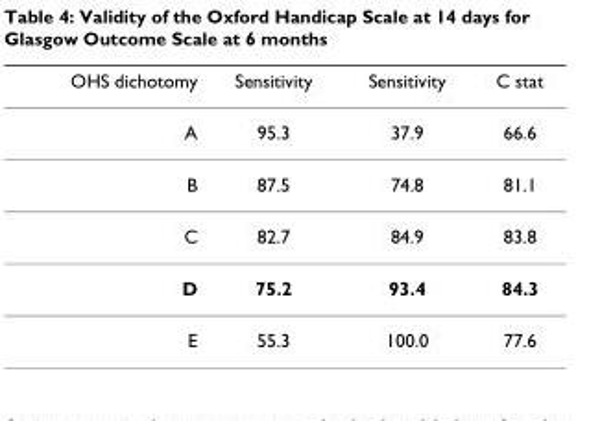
<table><thead><tr><td>OHS dichotomy</td><td>Sensitivity</td><td>Sensitivity</td><td>C stat</td></tr></thead><tbody><tr><td>A</td><td>95.3</td><td>37.9</td><td>66.6</td></tr><tr><td>B</td><td>87.5</td><td>74.8</td><td>81.1</td></tr><tr><td>C</td><td>82.7</td><td>84.9</td><td>83.8</td></tr><tr><td>D</td><td>75.2</td><td>93.4</td><td>84.3</td></tr><tr><td>E</td><td>55.3</td><td>100.0</td><td>77.6</td></tr></tbody></table>